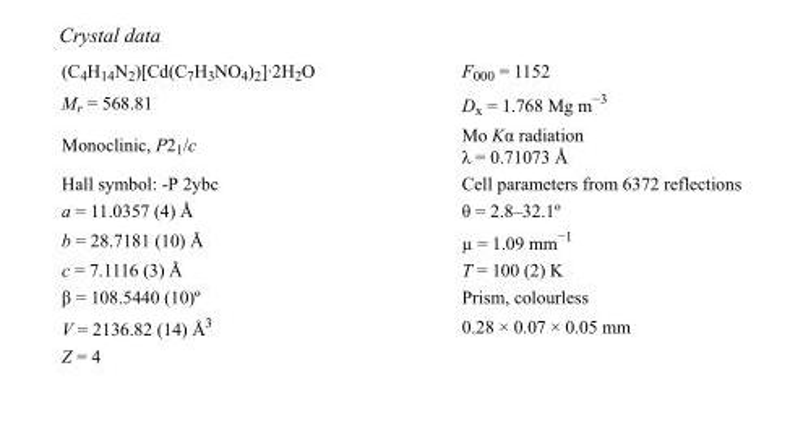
<table><tbody><tr><td>(C<sub>4</sub>H<sub>14</sub>N<sub>2</sub>)[Cd(C<sub>7</sub>H<sub>3</sub>NO<sub>4</sub>)<sub>2</sub>]·2H<sub>2</sub>O</td><td>F000 = 1152</td></tr><tr><td>M<sub>r</sub> = 568.81</td><td>D<sub>x</sub> = 1.768 Mg m<sup>−3</sup></td></tr><tr><td>Monoclinic, P2<sub>1</sub>/c</td><td>Mo Kα radiation λ = 0.71073 Å</td></tr><tr><td>Hall symbol: -P 2ybc</td><td>Cell parameters from 6372 reflections</td></tr><tr><td>a = 11.0357 (4) Å</td><td>θ = 2.8–32.1º</td></tr><tr><td>b = 28.7181 (10) Å</td><td>µ = 1.09 mm<sup>−1</sup></td></tr><tr><td>c = 7.1116 (3) Å</td><td>T = 100 (2) K</td></tr><tr><td>β = 108.5440 (10)º</td><td>Prism, colourless</td></tr><tr><td>V = 2136.82 (14) Å<sup>3</sup></td><td>0.28 × 0.07 × 0.05 mm</td></tr><tr><td>Z = 4</td><td></td></tr></tbody></table>